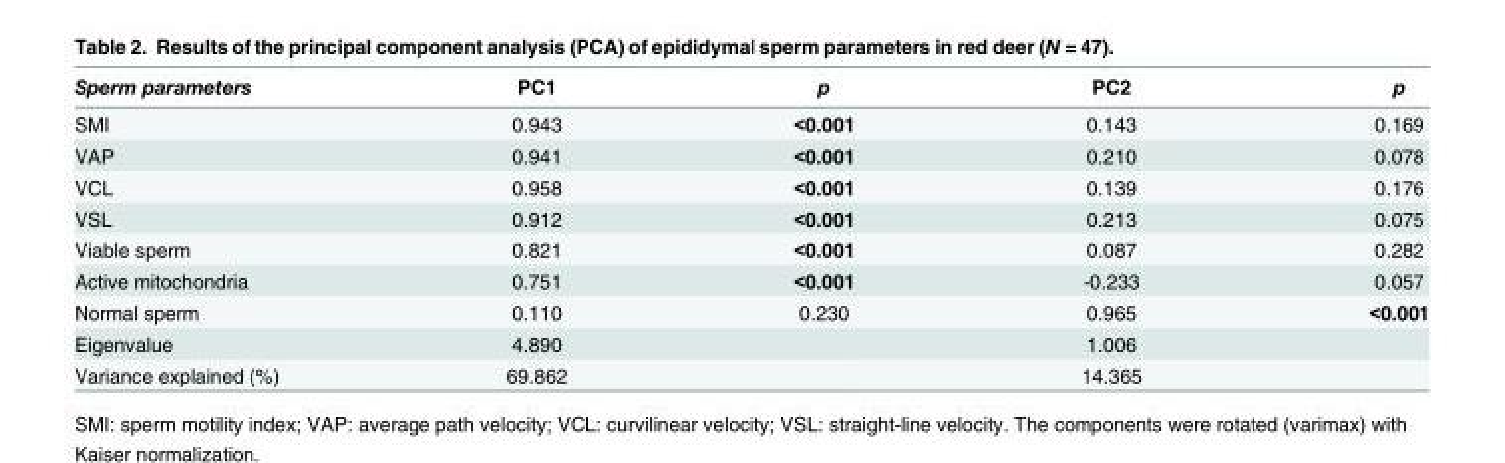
<table><thead><tr><td>Sperm parameters</td><td>PC1</td><td>p</td><td>PC2</td><td>p</td></tr></thead><tbody><tr><td>SMI</td><td>0.943</td><td>&lt;0.001</td><td>0.143</td><td>0.169</td></tr><tr><td>VAP</td><td>0.941</td><td>&lt;0.001</td><td>0.210</td><td>0.078</td></tr><tr><td>VCL</td><td>0.958</td><td>&lt;0.001</td><td>0.139</td><td>0.176</td></tr><tr><td>VSL</td><td>0.912</td><td>&lt;0.001</td><td>0.213</td><td>0.075</td></tr><tr><td>Viable sperm</td><td>0.821</td><td>&lt;0.001</td><td>0.087</td><td>0.282</td></tr><tr><td>Active mitochondria</td><td>0.751</td><td>&lt;0.001</td><td>-0.233</td><td>0.057</td></tr><tr><td>Normal sperm</td><td>0.110</td><td>0.230</td><td>0.965</td><td>&lt;0.001</td></tr><tr><td>Eigenvalue</td><td>4.890</td><td></td><td>1.006</td><td></td></tr><tr><td>Variance explained (%)</td><td>69.862</td><td></td><td>14.365</td><td></td></tr></tbody></table>